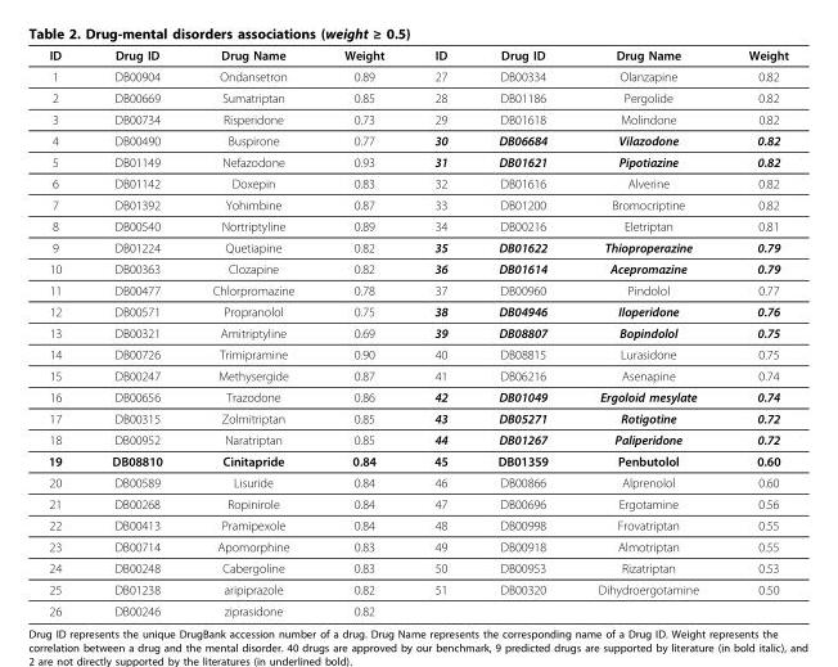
<table><thead><tr><td>ID</td><td>Drug ID</td><td>Drug Name</td><td>Weight</td><td>ID</td><td>Drug ID</td><td>Drug Name</td><td>Weight</td></tr></thead><tbody><tr><td>1</td><td>DB00904</td><td>Ondansetron</td><td>0.89</td><td>27</td><td>DB00334</td><td>Olanzapine</td><td>0.82</td></tr><tr><td>2</td><td>DB00669</td><td>Sumatriptan</td><td>0.85</td><td>28</td><td>DB01186</td><td>Pergolide</td><td>0.82</td></tr><tr><td>3</td><td>DB00734</td><td>Risperidone</td><td>0.73</td><td>29</td><td>DB01618</td><td>Molindone</td><td>0.82</td></tr><tr><td>4</td><td>DB00490</td><td>Buspirone</td><td>0.77</td><td>30</td><td>DB06684</td><td>Vilazodone</td><td>0.82</td></tr><tr><td>5</td><td>DB01149</td><td>Nefazodone</td><td>0.93</td><td>31</td><td>DB01621</td><td>Pipotiazine</td><td>0.82</td></tr><tr><td>6</td><td>DB01142</td><td>Doxepin</td><td>0.83</td><td>32</td><td>DB01616</td><td>Alverine</td><td>0.82</td></tr><tr><td>7</td><td>DB01392</td><td>Yohimbine</td><td>0.87</td><td>33</td><td>DB01200</td><td>Bromocriptine</td><td>0.82</td></tr><tr><td>8</td><td>DB00540</td><td>Nortriptyline</td><td>0.89</td><td>34</td><td>DB00216</td><td>Eletriptan</td><td>0.81</td></tr><tr><td>9</td><td>DB01224</td><td>Quetiapine</td><td>0.82</td><td>35</td><td>DB01622</td><td>Thioproperazine</td><td>0.79</td></tr><tr><td>10</td><td>DB00363</td><td>Clozapine</td><td>0.82</td><td>36</td><td>DB01614</td><td>Acepromazine</td><td>0.79</td></tr><tr><td>11</td><td>DB00477</td><td>Chlorpromazine</td><td>0.78</td><td>37</td><td>DB00960</td><td>Pindolol</td><td>0.77</td></tr><tr><td>12</td><td>DB00571</td><td>Propranolol</td><td>0.75</td><td>38</td><td>DB04946</td><td>Iloperidone</td><td>0.76</td></tr><tr><td>13</td><td>DB00321</td><td>Amitriptyline</td><td>0.69</td><td>39</td><td>DB08807</td><td>Bopindolol</td><td>0.75</td></tr><tr><td>14</td><td>DB00726</td><td>Trimipramine</td><td>0.90</td><td>40</td><td>DB08815</td><td>Lurasidone</td><td>0.75</td></tr><tr><td>15</td><td>DB00247</td><td>Methysergide</td><td>0.87</td><td>41</td><td>DB06216</td><td>Asenapine</td><td>0.74</td></tr><tr><td>16</td><td>DB00656</td><td>Trazodone</td><td>0.86</td><td>42</td><td>DB01049</td><td>Ergoloid mesylate</td><td>0.74</td></tr><tr><td>17</td><td>DB00315</td><td>Zolmitriptan</td><td>0.85</td><td>43</td><td>DB05271</td><td>Rotigotine</td><td>0.72</td></tr><tr><td>18</td><td>DB00952</td><td>Naratriptan</td><td>0.85</td><td>44</td><td>DB01267</td><td>Paliperidone</td><td>0.72</td></tr><tr><td>19</td><td>DB08810</td><td>Cinitapride</td><td>0.84</td><td>45</td><td>DB01359</td><td>Penbutolol</td><td>0.60</td></tr><tr><td>20</td><td>DB00589</td><td>Lisuride</td><td>0.84</td><td>46</td><td>DB00866</td><td>Alprenolol</td><td>0.60</td></tr><tr><td>21</td><td>DB00268</td><td>Ropinirole</td><td>0.84</td><td>47</td><td>DB00696</td><td>Ergotamine</td><td>0.56</td></tr><tr><td>22</td><td>DB00413</td><td>Pramipexole</td><td>0.84</td><td>48</td><td>DB00998</td><td>Frovatriptan</td><td>0.55</td></tr><tr><td>23</td><td>DB00714</td><td>Apomorphine</td><td>0.83</td><td>49</td><td>DB00918</td><td>Almotriptan</td><td>0.55</td></tr><tr><td>24</td><td>DB00248</td><td>Cabergoline</td><td>0.83</td><td>50</td><td>DB00953</td><td>Rizatriptan</td><td>0.53</td></tr><tr><td>25</td><td>DB01238</td><td>aripiprazole</td><td>0.82</td><td>51</td><td>DB00320</td><td>Dihydroergotamine</td><td>0.50</td></tr><tr><td>26</td><td>DB00246</td><td>ziprasidone</td><td>0.82</td><td></td><td></td><td></td><td></td></tr></tbody></table>